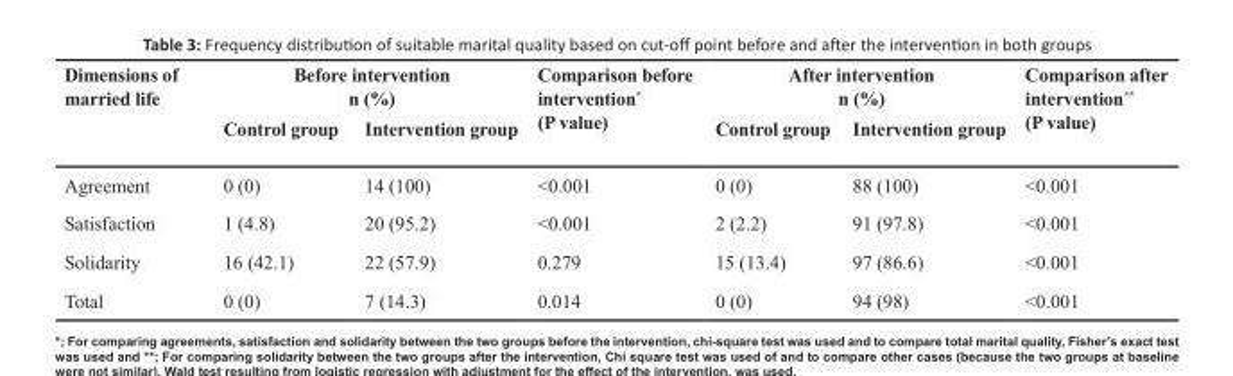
<table><thead><tr><td rowspan="2">Dimensions of married life</td><td colspan="2">Before intervention n (%)</td><td rowspan="2">Comparison before intervention* (P value)</td><td colspan="2">After intervention n (%)</td><td rowspan="2">Comparison after intervention** (P value)</td></tr><tr><td>Control group</td><td>Intervention group</td><td>Control group</td><td>Intervention group</td></tr></thead><tbody><tr><td>Agreement</td><td>0 (0)</td><td>14 (100)</td><td>&lt;0.001</td><td>0 (0)</td><td>88 (100)</td><td>&lt;0.001</td></tr><tr><td>Satisfaction</td><td>1 (4.8)</td><td>20 (95.2)</td><td>&lt;0.001</td><td>2 (2.2)</td><td>91 (97.8)</td><td>&lt;0.001</td></tr><tr><td>Solidarity</td><td>16 (42.1)</td><td>22 (57.9)</td><td>0.279</td><td>15 (13.4)</td><td>97 (86.6)</td><td>&lt;0.001</td></tr><tr><td>Total</td><td>0 (0)</td><td>7 (14.3)</td><td>0.014</td><td>0 (0)</td><td>94 (98)</td><td>&lt;0.001</td></tr></tbody></table>